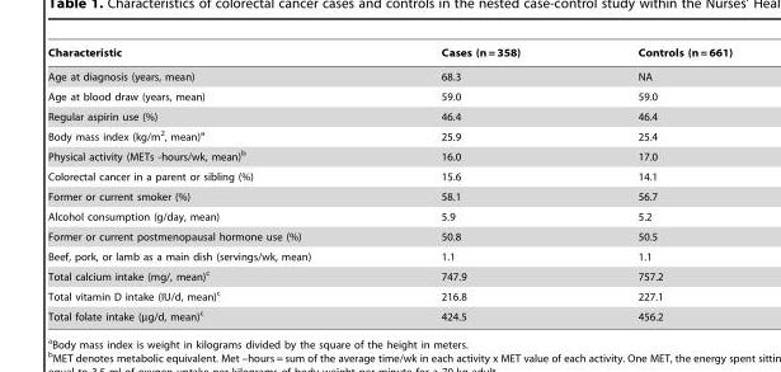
<table><thead><tr><td>Characteristic</td><td>Cases (n = 358)</td><td>Controls (n = 661)</td></tr></thead><tbody><tr><td>Age at diagnosis (years, mean)</td><td>68.3</td><td>NA</td></tr><tr><td>Age at blood draw (years, mean)</td><td>59.0</td><td>59.0</td></tr><tr><td>Regular aspirin use (%)</td><td>46.4</td><td>46.4</td></tr><tr><td>Body mass index (kg/m<sup>2</sup>, mean)<sup>a</sup></td><td>25.9</td><td>25.4</td></tr><tr><td>Physical activity (METs -hours/wk, mean)<sup>b</sup></td><td>16.0</td><td>17.0</td></tr><tr><td>Colorectal cancer in a parent or sibling (%)</td><td>15.6</td><td>14.1</td></tr><tr><td>Former or current smoker (%)</td><td>58.1</td><td>56.7</td></tr><tr><td>Alcohol consumption (g/day, mean)</td><td>5.9</td><td>5.2</td></tr><tr><td>Former or current postmenopausal hormone use (%)</td><td>50.8</td><td>50.5</td></tr><tr><td>Beef, pork, or lamb as a main dish (servings/wk, mean)</td><td>1.1</td><td>1.1</td></tr><tr><td>Total calcium intake (mg/, mean)<sup>c</sup></td><td>747.9</td><td>757.2</td></tr><tr><td>Total vitamin D intake (IU/d, mean)<sup>c</sup></td><td>216.8</td><td>227.1</td></tr><tr><td>Total folate intake (µg/d, mean)<sup>c</sup></td><td>424.5</td><td>456.2</td></tr></tbody></table>